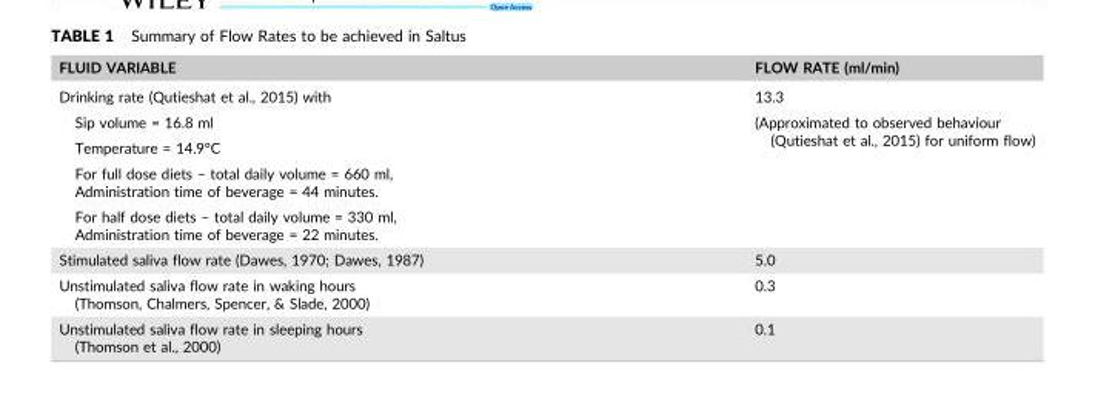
<table><thead><tr><td>FLUID VARIABLE</td><td>FLOW RATE (ml/min)</td></tr></thead><tbody><tr><td>Drinking rate (Qutieshat et al., 2015) with</td><td>13.3</td></tr><tr><td>Sip volume = 16.8 ml</td><td rowspan="4">(Approximated to observed behaviour (Qutieshat et al., 2015) for uniform flow)</td></tr><tr><td>Temperature = 14.9°C</td></tr><tr><td>For full dose diets – total daily volume = 660 ml, Administration time of beverage = 44 minutes.</td></tr><tr><td>For half dose diets – total daily volume = 330 ml, Administration time of beverage = 22 minutes.</td></tr><tr><td>Stimulated saliva flow rate (Dawes, 1970; Dawes, 1987)</td><td>5.0</td></tr><tr><td>Unstimulated saliva flow rate in waking hours (Thomson, Chalmers, Spencer, &amp; Slade, 2000)</td><td>0.3</td></tr><tr><td>Unstimulated saliva flow rate in sleeping hours (Thomson et al., 2000)</td><td>0.1</td></tr></tbody></table>